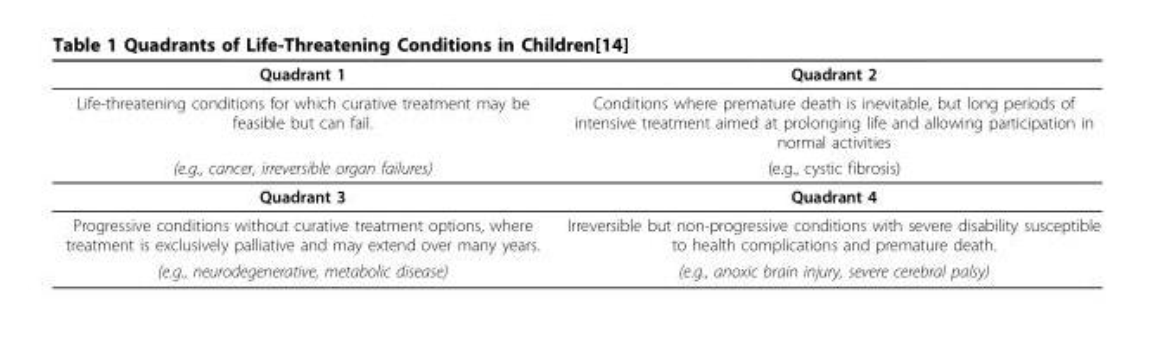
<table><thead><tr><td>Quadrant 1</td><td>Quadrant 2</td></tr></thead><tbody><tr><td>Life-threatening conditions for which curative treatment may be feasible but can fail.</td><td>Conditions where premature death is inevitable, but long periods of intensive treatment aimed at prolonging life and allowing participation in normal activities</td></tr><tr><td>(e.g., cancer, irreversible organ failures)</td><td>(e.g., cystic fibrosis)</td></tr><tr><td>Quadrant 3</td><td>Quadrant 4</td></tr><tr><td>Progressive conditions without curative treatment options, where treatment is exclusively palliative and may extend over many years.</td><td>Irreversible but non-progressive conditions with severe disability susceptible to health complications and premature death.</td></tr><tr><td>(e.g., neurodegenerative, metabolic disease)</td><td>(e.g., anoxic brain injury, severe cerebral palsy)</td></tr></tbody></table>